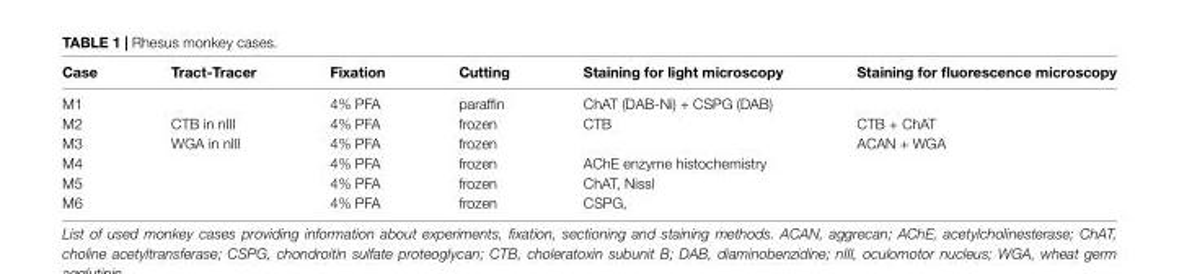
<table><thead><tr><td>Case</td><td>Tract-Tracer</td><td>Fixation</td><td>Cutting</td><td>Staining for light microscopy</td><td>Staining for fluorescence microscopy</td></tr></thead><tbody><tr><td>M1</td><td></td><td>4% PFA</td><td>paraffin</td><td>ChAT (DAB-Ni) + CSPG (DAB)</td><td></td></tr><tr><td>M2</td><td>CTB in nIII</td><td>4% PFA</td><td>frozen</td><td>CTB</td><td>CTB + ChAT</td></tr><tr><td>M3</td><td>WGA in nIII</td><td>4% PFA</td><td>frozen</td><td></td><td>ACAN + WGA</td></tr><tr><td>M4</td><td></td><td>4% PFA</td><td>frozen</td><td>AChE enzyme histochemistry</td><td></td></tr><tr><td>M5</td><td></td><td>4% PFA</td><td>frozen</td><td>ChAT, Nissl</td><td></td></tr><tr><td>M6</td><td></td><td>4% PFA</td><td>frozen</td><td>CSPG,</td><td></td></tr></tbody></table>